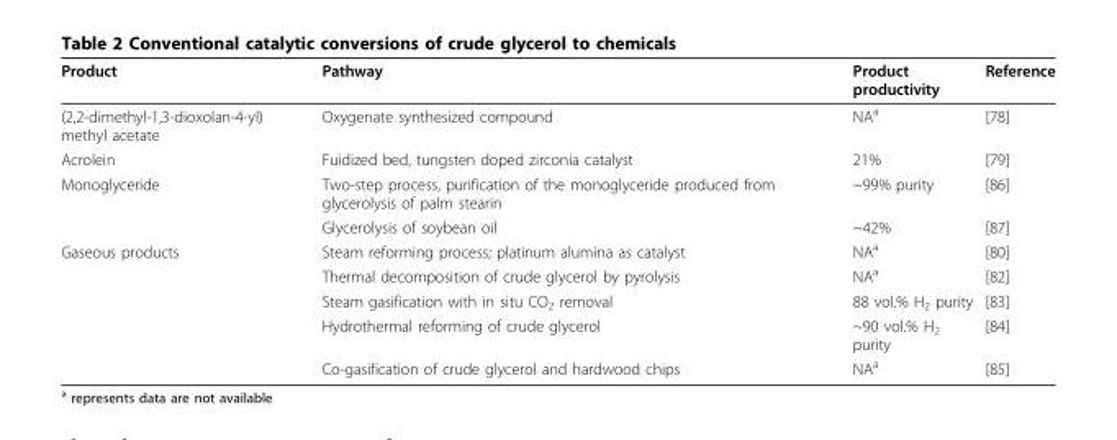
<table><thead><tr><td>Product</td><td>Pathway</td><td>Product productivity</td><td>Reference</td></tr></thead><tbody><tr><td>(2,2-dimethyl-1,3-dioxolan-4-yl) methyl acetate</td><td>Oxygenate synthesized compound</td><td>NA<sup>a</sup></td><td>[78]</td></tr><tr><td>Acrolein</td><td>Fuidized bed, tungsten doped zirconia catalyst</td><td>21%</td><td>[79]</td></tr><tr><td rowspan="2">Monoglyceride</td><td>Two-step process, purification of the monoglyceride produced from glycerolysis of palm stearin</td><td>~99% purity</td><td>[86]</td></tr><tr><td>Glycerolysis of soybean oil</td><td>~42%</td><td>[87]</td></tr><tr><td rowspan="5">Gaseous products</td><td>Steam reforming process; platinum alumina as catalyst</td><td>NA<sup>a</sup></td><td>[80]</td></tr><tr><td>Thermal decomposition of crude glycerol by pyrolysis</td><td>NA<sup>a</sup></td><td>[82]</td></tr><tr><td>Steam gasification with in situ CO<sub>2</sub> removal</td><td>88 vol.% H<sub>2</sub> purity</td><td>[83]</td></tr><tr><td>Hydrothermal reforming of crude glycerol</td><td>~90 vol.% H<sub>2</sub> purity</td><td>[84]</td></tr><tr><td>Co-gasification of crude glycerol and hardwood chips</td><td>NA<sup>a</sup></td><td>[85]</td></tr></tbody></table>